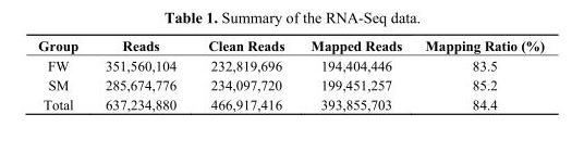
<table><thead><tr><td>Group</td><td>Reads</td><td>Clean Reads</td><td>Mapped Reads</td><td>Mapping Ratio (%)</td></tr></thead><tbody><tr><td>FW</td><td>351,560,104</td><td>232,819,696</td><td>194,404,446</td><td>83.5</td></tr><tr><td>SM</td><td>285,674,776</td><td>234,097,720</td><td>199,451,257</td><td>85.2</td></tr><tr><td>Total</td><td>637,234,880</td><td>466,917,416</td><td>393,855,703</td><td>84.4</td></tr></tbody></table>